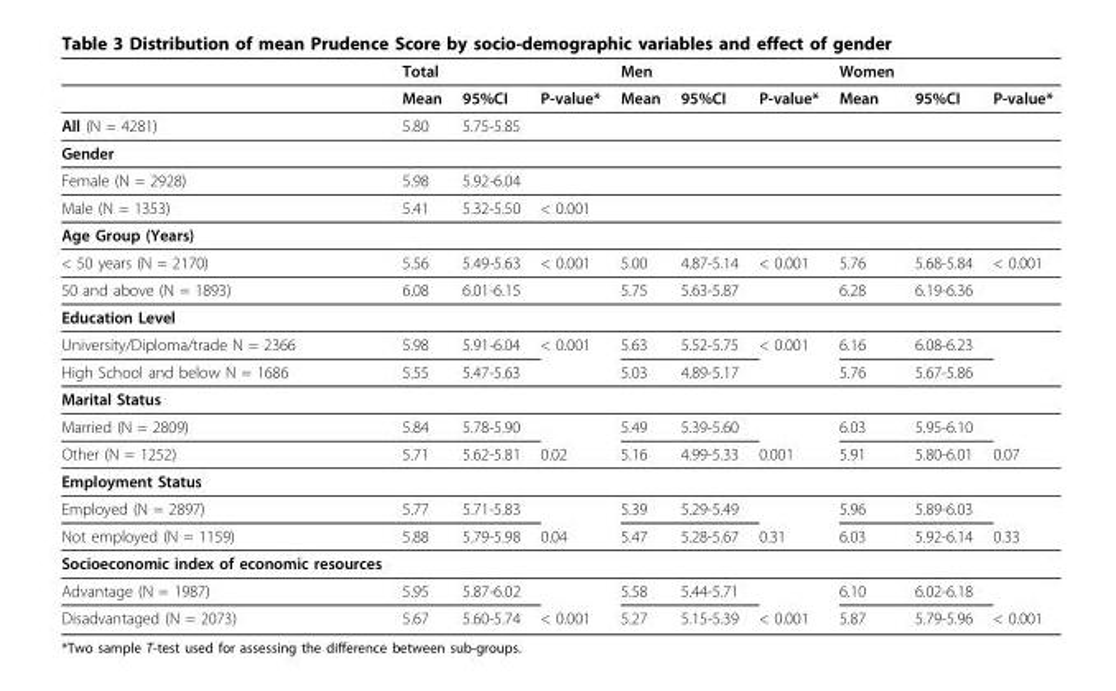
<table><thead><tr><td></td><td>Total</td><td></td><td></td><td>Men</td><td></td><td></td><td>Women</td><td></td><td></td></tr></thead><tbody><tr><td></td><td>Mean</td><td>95%CI</td><td>P-value*</td><td>Mean</td><td>95%CI</td><td>P-value*</td><td>Mean</td><td>95%CI</td><td>P-value*</td></tr><tr><td>All (N = 4281)</td><td>5.80</td><td>5.75-5.85</td><td></td><td></td><td></td><td></td><td></td><td></td><td></td></tr><tr><td colspan="10">Gender</td></tr><tr><td>Female (N = 2928)</td><td>5.98</td><td>5.92-6.04</td><td></td><td></td><td></td><td></td><td></td><td></td><td></td></tr><tr><td>Male (N = 1353)</td><td>5.41</td><td>5.32-5.50</td><td>&lt; 0.001</td><td></td><td></td><td></td><td></td><td></td><td></td></tr><tr><td colspan="10">Age Group (Years)</td></tr><tr><td>&lt; 50 years (N = 2170)</td><td>5.56</td><td>5.49-5.63</td><td>&lt; 0.001</td><td>5.00</td><td>4.87-5.14</td><td>&lt; 0.001</td><td>5.76</td><td>5.68-5.84</td><td>&lt; 0.001</td></tr><tr><td>50 and above (N = 1893)</td><td>6.08</td><td>6.01-6.15</td><td></td><td>5.75</td><td>5.63-5.87</td><td></td><td>6.28</td><td>6.19-6.36</td><td></td></tr><tr><td colspan="10">Education Level</td></tr><tr><td>University/Diploma/trade N = 2366</td><td>5.98</td><td>5.91-6.04</td><td>&lt; 0.001</td><td>5.63</td><td>5.52-5.75</td><td>&lt; 0.001</td><td>6.16</td><td>6.08-6.23</td><td></td></tr><tr><td>High School and below N = 1686</td><td>5.55</td><td>5.47-5.63</td><td></td><td>5.03</td><td>4.89-5.17</td><td></td><td>5.76</td><td>5.67-5.86</td><td></td></tr><tr><td colspan="10">Marital Status</td></tr><tr><td>Married (N = 2809)</td><td>5.84</td><td>5.78-5.90</td><td></td><td>5.49</td><td>5.39-5.60</td><td></td><td>6.03</td><td>5.95-6.10</td><td></td></tr><tr><td>Other (N = 1252)</td><td>5.71</td><td>5.62-5.81</td><td>0.02</td><td>5.16</td><td>4.99-5.33</td><td>0.001</td><td>5.91</td><td>5.80-6.01</td><td>0.07</td></tr><tr><td colspan="10">Employment Status</td></tr><tr><td>Employed (N = 2897)</td><td>5.77</td><td>5.71-5.83</td><td></td><td>5.39</td><td>5.29-5.49</td><td></td><td>5.96</td><td>5.89-6.03</td><td></td></tr><tr><td>Not employed (N = 1159)</td><td>5.88</td><td>5.79-5.98</td><td>0.04</td><td>5.47</td><td>5.28-5.67</td><td>0.31</td><td>6.03</td><td>5.92-6.14</td><td>0.33</td></tr><tr><td colspan="10">Socioeconomic index of economic resources</td></tr><tr><td>Advantage (N = 1987)</td><td>5.95</td><td>5.87-6.02</td><td></td><td>5.58</td><td>5.44-5.71</td><td></td><td>6.10</td><td>6.02-6.18</td><td></td></tr><tr><td>Disadvantaged (N = 2073)</td><td>5.67</td><td>5.60-5.74</td><td>&lt; 0.001</td><td>5.27</td><td>5.15-5.39</td><td>&lt; 0.001</td><td>5.87</td><td>5.79-5.96</td><td>&lt; 0.001</td></tr></tbody></table>